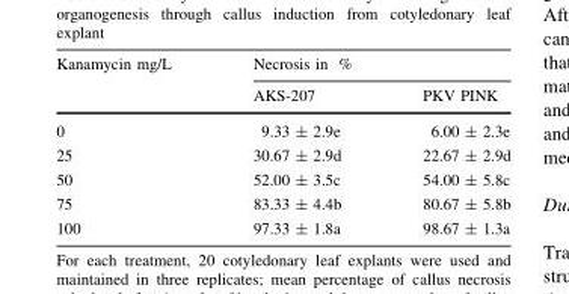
<table><thead><tr><td rowspan="2">Kanamycin mg/L</td><td colspan="2">Necrosis in %</td></tr><tr><td>AKS-207</td><td>PKV PINK</td></tr></thead><tbody><tr><td>0</td><td>9.33 ± 2.9e</td><td>6.00 ± 2.3e</td></tr><tr><td>25</td><td>30.67 ± 2.9d</td><td>22.67 ± 2.9d</td></tr><tr><td>50</td><td>52.00 ± 3.5c</td><td>54.00 ± 5.8c</td></tr><tr><td>75</td><td>83.33 ± 4.4b</td><td>80.67 ± 5.8b</td></tr><tr><td>100</td><td>97.33 ± 1.8a</td><td>98.67 ± 1.3a</td></tr></tbody></table>